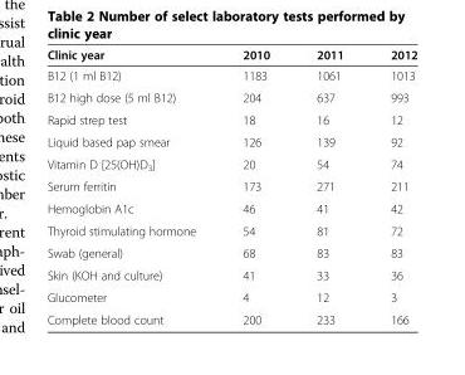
<table><thead><tr><td>Clinic year</td><td>2010</td><td>2011</td><td>2012</td></tr></thead><tbody><tr><td>B12 (1 ml B12)</td><td>1183</td><td>1061</td><td>1013</td></tr><tr><td>B12 high dose (5 ml B12)</td><td>204</td><td>637</td><td>993</td></tr><tr><td>Rapid strep test</td><td>18</td><td>16</td><td>12</td></tr><tr><td>Liquid based pap smear</td><td>126</td><td>139</td><td>92</td></tr><tr><td>Vitamin D [25(OH)D<sub>3</sub>]</td><td>20</td><td>54</td><td>74</td></tr><tr><td>Serum ferritin</td><td>173</td><td>271</td><td>211</td></tr><tr><td>Hemoglobin A1c</td><td>46</td><td>41</td><td>42</td></tr><tr><td>Thyroid stimulating hormone</td><td>54</td><td>81</td><td>72</td></tr><tr><td>Swab (general)</td><td>68</td><td>83</td><td>83</td></tr><tr><td>Skin (KOH and culture)</td><td>41</td><td>33</td><td>36</td></tr><tr><td>Glucometer</td><td>4</td><td>12</td><td>3</td></tr><tr><td>Complete blood count</td><td>200</td><td>233</td><td>166</td></tr></tbody></table>